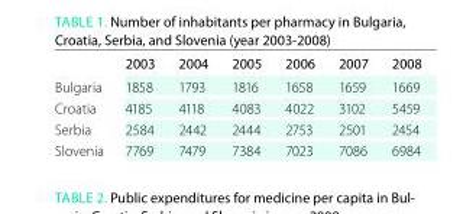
<table><thead><tr><td></td><td>2003</td><td>2004</td><td>2005</td><td>2006</td><td>2007</td><td>2008</td></tr></thead><tbody><tr><td>Bulgaria</td><td>1858</td><td>1793</td><td>1816</td><td>1658</td><td>1659</td><td>1669</td></tr><tr><td>Croatia</td><td>4185</td><td>4118</td><td>4083</td><td>4022</td><td>3102</td><td>5459</td></tr><tr><td>Serbia</td><td>2584</td><td>2442</td><td>2444</td><td>2753</td><td>2501</td><td>2454</td></tr><tr><td>Slovenia</td><td>7769</td><td>7479</td><td>7384</td><td>7023</td><td>7086</td><td>6984</td></tr></tbody></table>